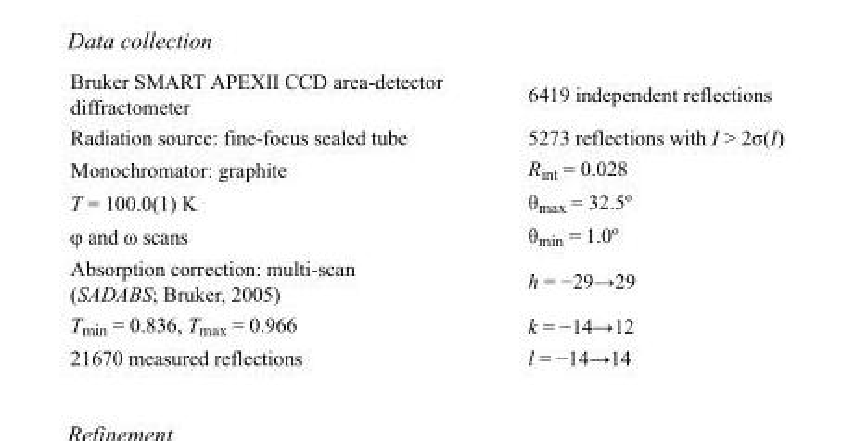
<table><tbody><tr><td>Bruker SMART APEXII CCD area-detector diffractometer</td><td>6419 independent reflections</td></tr><tr><td>Radiation source: fine-focus sealed tube</td><td>5273 reflections with I &gt; 2σ(I)</td></tr><tr><td>Monochromator: graphite</td><td>R<sub>int</sub> = 0.028</td></tr><tr><td>T = 100.0(1) K</td><td>θ<sub>max</sub> = 32.5º</td></tr><tr><td>φ and ω scans</td><td>θ<sub>min</sub> = 1.0º</td></tr><tr><td>Absorption correction: multi-scan (SADABS; Bruker, 2005)</td><td>h = −29→29</td></tr><tr><td>T<sub>min</sub> = 0.836, T<sub>max</sub> = 0.966</td><td>k = −14→12</td></tr><tr><td>21670 measured reflections</td><td>l = −14→14</td></tr></tbody></table>